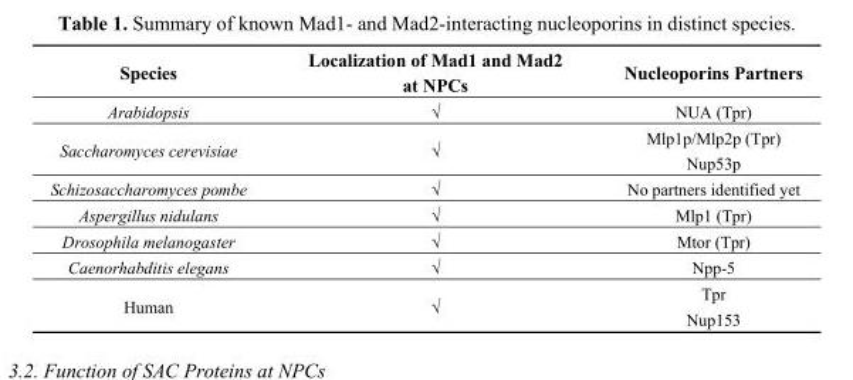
<table><thead><tr><td>Species</td><td>Localization of Mad1 and Mad2 at NPCs</td><td>Nucleoporins Partners</td></tr></thead><tbody><tr><td>Arabidopsis</td><td>√</td><td>NUA (Tpr)</td></tr><tr><td rowspan="2">Saccharomyces cerevisiae</td><td rowspan="2">√</td><td>Mlp1p/Mlp2p (Tpr)</td></tr><tr><td>Nup53p</td></tr><tr><td>Schizosaccharomyces pombe</td><td>√</td><td>No partners identified yet</td></tr><tr><td>Aspergillus nidulans</td><td>√</td><td>Mlp1 (Tpr)</td></tr><tr><td>Drosophila melanogaster</td><td>√</td><td>Mtor (Tpr)</td></tr><tr><td>Caenorhabditis elegans</td><td>√</td><td>Npp-5</td></tr><tr><td rowspan="2">Human</td><td rowspan="2">√</td><td>Tpr</td></tr><tr><td>Nup153</td></tr></tbody></table>